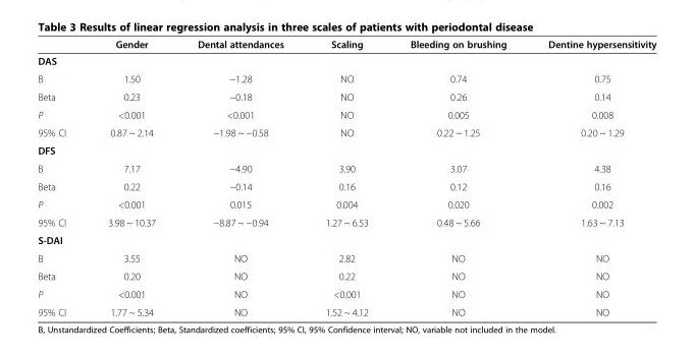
<table><thead><tr><td></td><td>Gender</td><td>Dental attendances</td><td>Scaling</td><td>Bleeding on brushing</td><td>Dentine hypersensitivity</td></tr></thead><tbody><tr><td colspan="6">DAS</td></tr><tr><td>B</td><td>1.50</td><td>−1.28</td><td>NO</td><td>0.74</td><td>0.75</td></tr><tr><td>Beta</td><td>0.23</td><td>−0.18</td><td>NO</td><td>0.26</td><td>0.14</td></tr><tr><td>P</td><td>&lt;0.001</td><td>&lt;0.001</td><td>NO</td><td>0.005</td><td>0.008</td></tr><tr><td>95% CI</td><td>0.87 ~ 2.14</td><td>−1.98 ~ −0.58</td><td>NO</td><td>0.22 ~ 1.25</td><td>0.20 ~ 1.29</td></tr><tr><td colspan="6">DFS</td></tr><tr><td>B</td><td>7.17</td><td>−4.90</td><td>3.90</td><td>3.07</td><td>4.38</td></tr><tr><td>Beta</td><td>0.22</td><td>−0.14</td><td>0.16</td><td>0.12</td><td>0.16</td></tr><tr><td>P</td><td>&lt;0.001</td><td>0.015</td><td>0.004</td><td>0.020</td><td>0.002</td></tr><tr><td>95% CI</td><td>3.98 ~ 10.37</td><td>−8.87 ~ −0.94</td><td>1.27 ~ 6.53</td><td>0.48 ~ 5.66</td><td>1.63 ~ 7.13</td></tr><tr><td colspan="6">S-DAI</td></tr><tr><td>B</td><td>3.55</td><td>NO</td><td>2.82</td><td>NO</td><td>NO</td></tr><tr><td>Beta</td><td>0.20</td><td>NO</td><td>0.22</td><td>NO</td><td>NO</td></tr><tr><td>P</td><td>&lt;0.001</td><td>NO</td><td>&lt;0.001</td><td>NO</td><td>NO</td></tr><tr><td>95% CI</td><td>1.77 ~ 5.34</td><td>NO</td><td>1.52 ~ 4.12</td><td>NO</td><td>NO</td></tr></tbody></table>